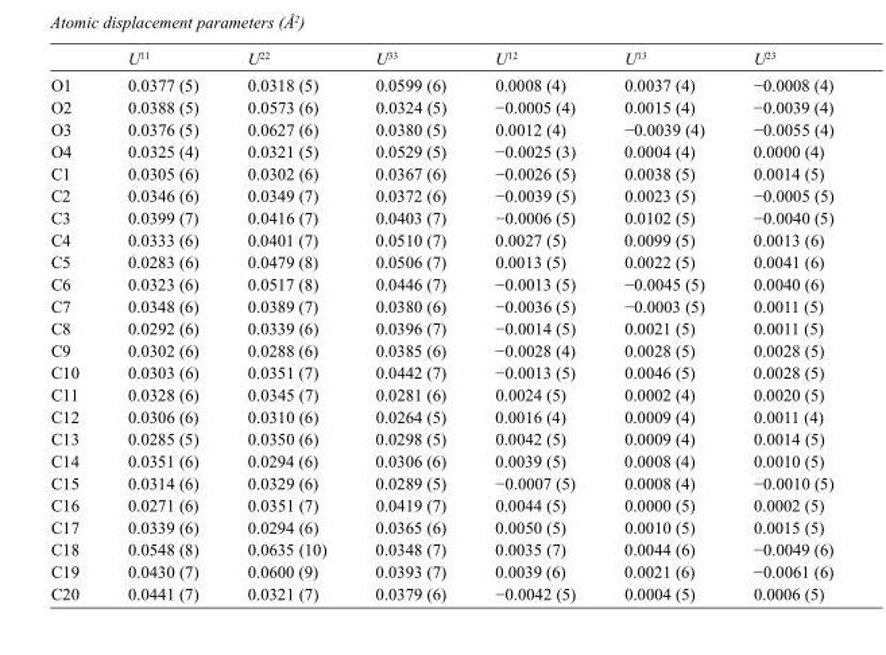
<table><thead><tr><td></td><td>U<sup>11</sup></td><td>U<sup>22</sup></td><td>U<sup>33</sup></td><td>U<sup>12</sup></td><td>U<sup>13</sup></td><td>U<sup>23</sup></td></tr></thead><tbody><tr><td>O1</td><td>0.0377 (5)</td><td>0.0318 (5)</td><td>0.0599 (6)</td><td>0.0008 (4)</td><td>0.0037 (4)</td><td>−0.0008 (4)</td></tr><tr><td>O2</td><td>0.0388 (5)</td><td>0.0573 (6)</td><td>0.0324 (5)</td><td>−0.0005 (4)</td><td>0.0015 (4)</td><td>−0.0039 (4)</td></tr><tr><td>O3</td><td>0.0376 (5)</td><td>0.0627 (6)</td><td>0.0380 (5)</td><td>0.0012 (4)</td><td>−0.0039 (4)</td><td>−0.0055 (4)</td></tr><tr><td>O4</td><td>0.0325 (4)</td><td>0.0321 (5)</td><td>0.0529 (5)</td><td>−0.0025 (3)</td><td>0.0004 (4)</td><td>0.0000 (4)</td></tr><tr><td>C1</td><td>0.0305 (6)</td><td>0.0302 (6)</td><td>0.0367 (6)</td><td>−0.0026 (5)</td><td>0.0038 (5)</td><td>0.0014 (5)</td></tr><tr><td>C2</td><td>0.0346 (6)</td><td>0.0349 (7)</td><td>0.0372 (6)</td><td>−0.0039 (5)</td><td>0.0023 (5)</td><td>−0.0005 (5)</td></tr><tr><td>C3</td><td>0.0399 (7)</td><td>0.0416 (7)</td><td>0.0403 (7)</td><td>−0.0006 (5)</td><td>0.0102 (5)</td><td>−0.0040 (5)</td></tr><tr><td>C4</td><td>0.0333 (6)</td><td>0.0401 (7)</td><td>0.0510 (7)</td><td>0.0027 (5)</td><td>0.0099 (5)</td><td>0.0013 (6)</td></tr><tr><td>C5</td><td>0.0283 (6)</td><td>0.0479 (8)</td><td>0.0506 (7)</td><td>0.0013 (5)</td><td>0.0022 (5)</td><td>0.0041 (6)</td></tr><tr><td>C6</td><td>0.0323 (6)</td><td>0.0517 (8)</td><td>0.0446 (7)</td><td>−0.0013 (5)</td><td>−0.0045 (5)</td><td>0.0040 (6)</td></tr><tr><td>C7</td><td>0.0348 (6)</td><td>0.0389 (7)</td><td>0.0380 (6)</td><td>−0.0036 (5)</td><td>−0.0003 (5)</td><td>0.0011 (5)</td></tr><tr><td>C8</td><td>0.0292 (6)</td><td>0.0339 (6)</td><td>0.0396 (7)</td><td>−0.0014 (5)</td><td>0.0021 (5)</td><td>0.0011 (5)</td></tr><tr><td>C9</td><td>0.0302 (6)</td><td>0.0288 (6)</td><td>0.0385 (6)</td><td>−0.0028 (4)</td><td>0.0028 (5)</td><td>0.0028 (5)</td></tr><tr><td>C10</td><td>0.0303 (6)</td><td>0.0351 (7)</td><td>0.0442 (7)</td><td>−0.0013 (5)</td><td>0.0046 (5)</td><td>0.0028 (5)</td></tr><tr><td>C11</td><td>0.0328 (6)</td><td>0.0345 (7)</td><td>0.0281 (6)</td><td>0.0024 (5)</td><td>0.0002 (4)</td><td>0.0020 (5)</td></tr><tr><td>C12</td><td>0.0306 (6)</td><td>0.0310 (6)</td><td>0.0264 (5)</td><td>0.0016 (4)</td><td>0.0009 (4)</td><td>0.0011 (4)</td></tr><tr><td>C13</td><td>0.0285 (5)</td><td>0.0350 (6)</td><td>0.0298 (5)</td><td>0.0042 (5)</td><td>0.0009 (4)</td><td>0.0014 (5)</td></tr><tr><td>C14</td><td>0.0351 (6)</td><td>0.0294 (6)</td><td>0.0306 (6)</td><td>0.0039 (5)</td><td>0.0008 (4)</td><td>0.0010 (5)</td></tr><tr><td>C15</td><td>0.0314 (6)</td><td>0.0329 (6)</td><td>0.0289 (5)</td><td>−0.0007 (5)</td><td>0.0008 (4)</td><td>−0.0010 (5)</td></tr><tr><td>C16</td><td>0.0271 (6)</td><td>0.0351 (7)</td><td>0.0419 (7)</td><td>0.0044 (5)</td><td>0.0000 (5)</td><td>0.0002 (5)</td></tr><tr><td>C17</td><td>0.0339 (6)</td><td>0.0294 (6)</td><td>0.0365 (6)</td><td>0.0050 (5)</td><td>0.0010 (5)</td><td>0.0015 (5)</td></tr><tr><td>C18</td><td>0.0548 (8)</td><td>0.0635 (10)</td><td>0.0348 (7)</td><td>0.0035 (7)</td><td>0.0044 (6)</td><td>−0.0049 (6)</td></tr><tr><td>C19</td><td>0.0430 (7)</td><td>0.0600 (9)</td><td>0.0393 (7)</td><td>0.0039 (6)</td><td>0.0021 (6)</td><td>−0.0061 (6)</td></tr><tr><td>C20</td><td>0.0441 (7)</td><td>0.0321 (7)</td><td>0.0379 (6)</td><td>−0.0042 (5)</td><td>0.0004 (5)</td><td>0.0006 (5)</td></tr></tbody></table>